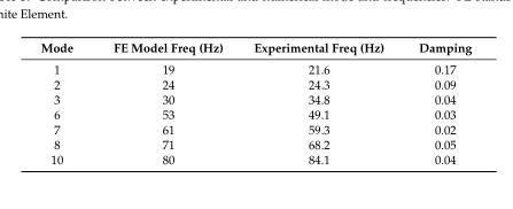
<table><thead><tr><td>Mode</td><td>FE Model Freq (Hz)</td><td>Experimental Freq (Hz)</td><td>Damping</td></tr></thead><tbody><tr><td>1</td><td>19</td><td>21.6</td><td>0.17</td></tr><tr><td>2</td><td>24</td><td>24.3</td><td>0.09</td></tr><tr><td>3</td><td>30</td><td>34.8</td><td>0.04</td></tr><tr><td>6</td><td>53</td><td>49.1</td><td>0.03</td></tr><tr><td>7</td><td>61</td><td>59.3</td><td>0.02</td></tr><tr><td>8</td><td>71</td><td>68.2</td><td>0.05</td></tr><tr><td>10</td><td>80</td><td>84.1</td><td>0.04</td></tr></tbody></table>